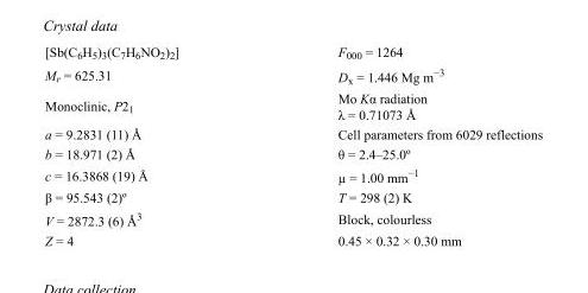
<table><tbody><tr><td>[Sb(C<sub>6</sub>H<sub>5</sub>)<sub>3</sub>(C<sub>7</sub>H<sub>6</sub>NO<sub>2</sub>)<sub>2</sub>]</td><td>F000 = 1264</td></tr><tr><td>M<sub>r</sub> = 625.31</td><td>D<sub>x</sub> = 1.446 Mg m<sup>−3</sup></td></tr><tr><td>Monoclinic, P2<sub>1</sub></td><td>Mo Kα radiation λ = 0.71073 Å</td></tr><tr><td>a = 9.2831 (11) Å</td><td>Cell parameters from 6029 reflections</td></tr><tr><td>b = 18.971 (2) Å</td><td>θ = 2.4–25.0º</td></tr><tr><td>c = 16.3868 (19) Å</td><td>µ = 1.00 mm<sup>−1</sup></td></tr><tr><td>β = 95.543 (2)º</td><td>T = 298 (2) K</td></tr><tr><td>V = 2872.3 (6) Å<sup>3</sup></td><td>Block, colourless</td></tr><tr><td>Z = 4</td><td>0.45 × 0.32 × 0.30 mm</td></tr></tbody></table>